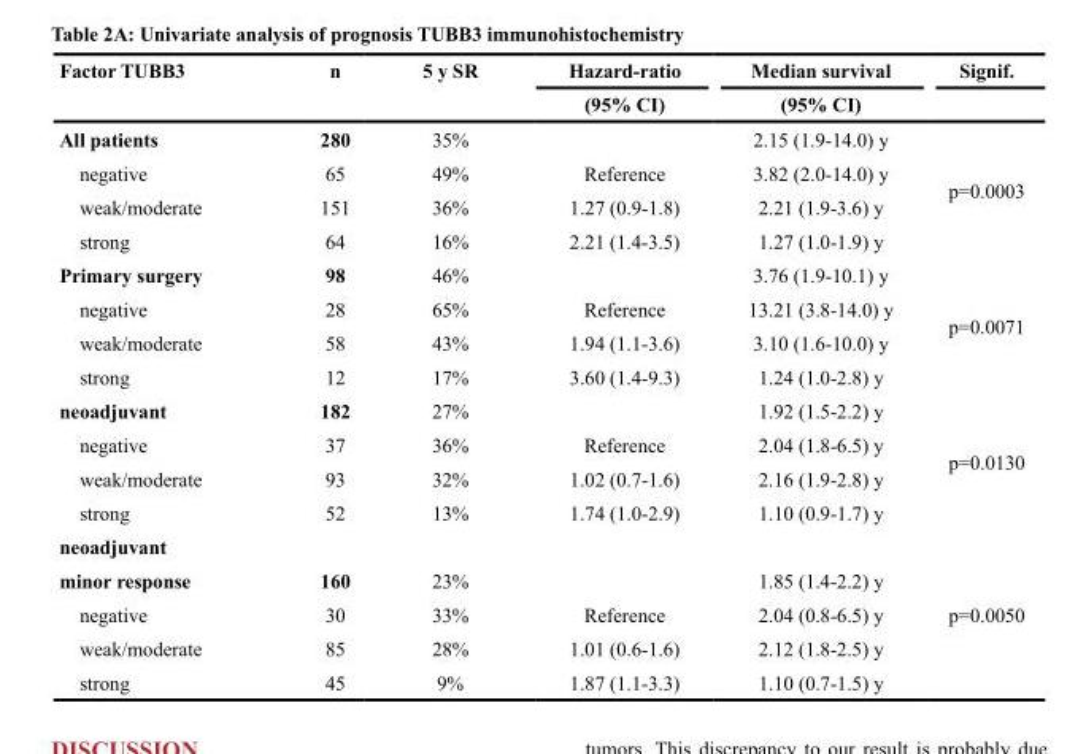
<table><thead><tr><td rowspan="2">Factor TUBB3</td><td rowspan="2">n</td><td rowspan="2">5 y SR</td><td rowspan="2">Hazard-ratio (95% CI)</td><td rowspan="2">Median survival (95% CI)</td><td rowspan="2">Signif.</td></tr><tr></tr></thead><tbody><tr><td>All patients</td><td>280</td><td>35%</td><td></td><td>2.15 (1.9-14.0) y</td><td rowspan="4">p=0.0003</td></tr><tr><td>negative</td><td>65</td><td>49%</td><td>Reference</td><td>3.82 (2.0-14.0) y</td></tr><tr><td>weak/moderate</td><td>151</td><td>36%</td><td>1.27 (0.9-1.8)</td><td>2.21 (1.9-3.6) y</td></tr><tr><td>strong</td><td>64</td><td>16%</td><td>2.21 (1.4-3.5)</td><td>1.27 (1.0-1.9) y</td></tr><tr><td>Primary surgery</td><td>98</td><td>46%</td><td></td><td>3.76 (1.9-10.1) y</td><td rowspan="4">p=0.0071</td></tr><tr><td>negative</td><td>28</td><td>65%</td><td>Reference</td><td>13.21 (3.8-14.0) y</td></tr><tr><td>weak/moderate</td><td>58</td><td>43%</td><td>1.94 (1.1-3.6)</td><td>3.10 (1.6-10.0) y</td></tr><tr><td>strong</td><td>12</td><td>17%</td><td>3.60 (1.4-9.3)</td><td>1.24 (1.0-2.8) y</td></tr><tr><td>neoadjuvant</td><td>182</td><td>27%</td><td></td><td>1.92 (1.5-2.2) y</td><td rowspan="4">p=0.0130</td></tr><tr><td>negative</td><td>37</td><td>36%</td><td>Reference</td><td>2.04 (1.8-6.5) y</td></tr><tr><td>weak/moderate</td><td>93</td><td>32%</td><td>1.02 (0.7-1.6)</td><td>2.16 (1.9-2.8) y</td></tr><tr><td>strong</td><td>52</td><td>13%</td><td>1.74 (1.0-2.9)</td><td>1.10 (0.9-1.7) y</td></tr><tr><td colspan="6">neoadjuvant</td></tr><tr><td>minor response</td><td>160</td><td>23%</td><td></td><td>1.85 (1.4-2.2) y</td><td rowspan="4">p=0.0050</td></tr><tr><td>negative</td><td>30</td><td>33%</td><td>Reference</td><td>2.04 (0.8-6.5) y</td></tr><tr><td>weak/moderate</td><td>85</td><td>28%</td><td>1.01 (0.6-1.6)</td><td>2.12 (1.8-2.5) y</td></tr><tr><td>strong</td><td>45</td><td>9%</td><td>1.87 (1.1-3.3)</td><td>1.10 (0.7-1.5) y</td></tr></tbody></table>